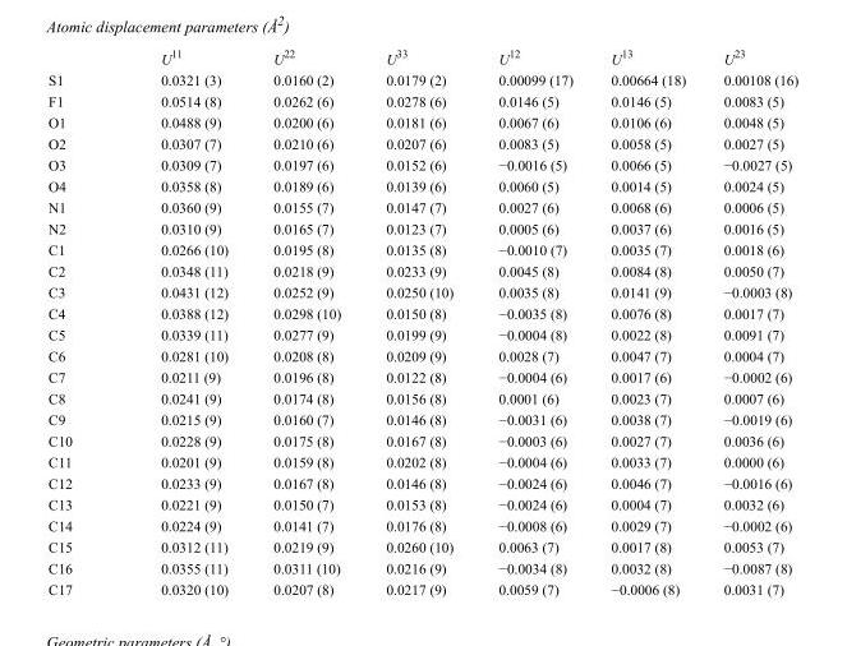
<table><thead><tr><td></td><td>U<sup>11</sup></td><td>U<sup>22</sup></td><td>U<sup>33</sup></td><td>U<sup>12</sup></td><td>U<sup>13</sup></td><td>U<sup>23</sup></td></tr></thead><tbody><tr><td>S1</td><td>0.0321 (3)</td><td>0.0160 (2)</td><td>0.0179 (2)</td><td>0.00099 (17)</td><td>0.00664 (18)</td><td>0.00108 (16)</td></tr><tr><td>F1</td><td>0.0514 (8)</td><td>0.0262 (6)</td><td>0.0278 (6)</td><td>0.0146 (5)</td><td>0.0146 (5)</td><td>0.0083 (5)</td></tr><tr><td>O1</td><td>0.0488 (9)</td><td>0.0200 (6)</td><td>0.0181 (6)</td><td>0.0067 (6)</td><td>0.0106 (6)</td><td>0.0048 (5)</td></tr><tr><td>O2</td><td>0.0307 (7)</td><td>0.0210 (6)</td><td>0.0207 (6)</td><td>0.0083 (5)</td><td>0.0058 (5)</td><td>0.0027 (5)</td></tr><tr><td>O3</td><td>0.0309 (7)</td><td>0.0197 (6)</td><td>0.0152 (6)</td><td>−0.0016 (5)</td><td>0.0066 (5)</td><td>−0.0027 (5)</td></tr><tr><td>O4</td><td>0.0358 (8)</td><td>0.0189 (6)</td><td>0.0139 (6)</td><td>0.0060 (5)</td><td>0.0014 (5)</td><td>0.0024 (5)</td></tr><tr><td>N1</td><td>0.0360 (9)</td><td>0.0155 (7)</td><td>0.0147 (7)</td><td>0.0027 (6)</td><td>0.0068 (6)</td><td>0.0006 (5)</td></tr><tr><td>N2</td><td>0.0310 (9)</td><td>0.0165 (7)</td><td>0.0123 (7)</td><td>0.0005 (6)</td><td>0.0037 (6)</td><td>0.0016 (5)</td></tr><tr><td>C1</td><td>0.0266 (10)</td><td>0.0195 (8)</td><td>0.0135 (8)</td><td>−0.0010 (7)</td><td>0.0035 (7)</td><td>0.0018 (6)</td></tr><tr><td>C2</td><td>0.0348 (11)</td><td>0.0218 (9)</td><td>0.0233 (9)</td><td>0.0045 (8)</td><td>0.0084 (8)</td><td>0.0050 (7)</td></tr><tr><td>C3</td><td>0.0431 (12)</td><td>0.0252 (9)</td><td>0.0250 (10)</td><td>0.0035 (8)</td><td>0.0141 (9)</td><td>−0.0003 (8)</td></tr><tr><td>C4</td><td>0.0388 (12)</td><td>0.0298 (10)</td><td>0.0150 (8)</td><td>−0.0035 (8)</td><td>0.0076 (8)</td><td>0.0017 (7)</td></tr><tr><td>C5</td><td>0.0339 (11)</td><td>0.0277 (9)</td><td>0.0199 (9)</td><td>−0.0004 (8)</td><td>0.0022 (8)</td><td>0.0091 (7)</td></tr><tr><td>C6</td><td>0.0281 (10)</td><td>0.0208 (8)</td><td>0.0209 (9)</td><td>0.0028 (7)</td><td>0.0047 (7)</td><td>0.0004 (7)</td></tr><tr><td>C7</td><td>0.0211 (9)</td><td>0.0196 (8)</td><td>0.0122 (8)</td><td>−0.0004 (6)</td><td>0.0017 (6)</td><td>−0.0002 (6)</td></tr><tr><td>C8</td><td>0.0241 (9)</td><td>0.0174 (8)</td><td>0.0156 (8)</td><td>0.0001 (6)</td><td>0.0023 (7)</td><td>0.0007 (6)</td></tr><tr><td>C9</td><td>0.0215 (9)</td><td>0.0160 (7)</td><td>0.0146 (8)</td><td>−0.0031 (6)</td><td>0.0038 (7)</td><td>−0.0019 (6)</td></tr><tr><td>C10</td><td>0.0228 (9)</td><td>0.0175 (8)</td><td>0.0167 (8)</td><td>−0.0003 (6)</td><td>0.0027 (7)</td><td>0.0036 (6)</td></tr><tr><td>C11</td><td>0.0201 (9)</td><td>0.0159 (8)</td><td>0.0202 (8)</td><td>−0.0004 (6)</td><td>0.0033 (7)</td><td>0.0000 (6)</td></tr><tr><td>C12</td><td>0.0233 (9)</td><td>0.0167 (8)</td><td>0.0146 (8)</td><td>−0.0024 (6)</td><td>0.0046 (7)</td><td>−0.0016 (6)</td></tr><tr><td>C13</td><td>0.0221 (9)</td><td>0.0150 (7)</td><td>0.0153 (8)</td><td>−0.0024 (6)</td><td>0.0004 (7)</td><td>0.0032 (6)</td></tr><tr><td>C14</td><td>0.0224 (9)</td><td>0.0141 (7)</td><td>0.0176 (8)</td><td>−0.0008 (6)</td><td>0.0029 (7)</td><td>−0.0002 (6)</td></tr><tr><td>C15</td><td>0.0312 (11)</td><td>0.0219 (9)</td><td>0.0260 (10)</td><td>0.0063 (7)</td><td>0.0017 (8)</td><td>0.0053 (7)</td></tr><tr><td>C16</td><td>0.0355 (11)</td><td>0.0311 (10)</td><td>0.0216 (9)</td><td>−0.0034 (8)</td><td>0.0032 (8)</td><td>−0.0087 (8)</td></tr><tr><td>C17</td><td>0.0320 (10)</td><td>0.0207 (8)</td><td>0.0217 (9)</td><td>0.0059 (7)</td><td>−0.0006 (8)</td><td>0.0031 (7)</td></tr></tbody></table>